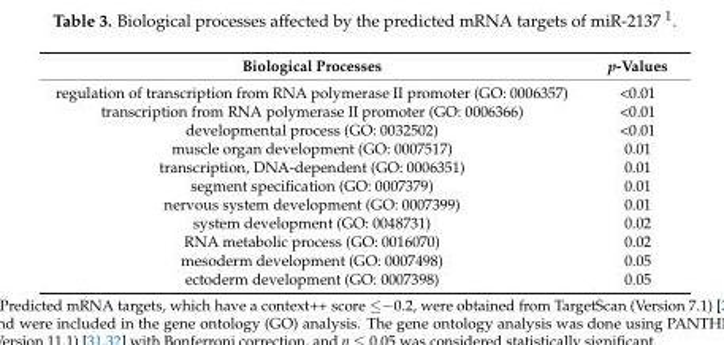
<table><thead><tr><td>Biological Processes</td><td>p-Values</td></tr></thead><tbody><tr><td>regulation of transcription from RNA polymerase II promoter (GO: 0006357)</td><td>&lt;0.01</td></tr><tr><td>transcription from RNA polymerase II promoter (GO: 0006366)</td><td>&lt;0.01</td></tr><tr><td>developmental process (GO: 0032502)</td><td>&lt;0.01</td></tr><tr><td>muscle organ development (GO: 0007517)</td><td>0.01</td></tr><tr><td>transcription, DNA-dependent (GO: 0006351)</td><td>0.01</td></tr><tr><td>segment specification (GO: 0007379)</td><td>0.01</td></tr><tr><td>nervous system development (GO: 0007399)</td><td>0.01</td></tr><tr><td>system development (GO: 0048731)</td><td>0.02</td></tr><tr><td>RNA metabolic process (GO: 0016070)</td><td>0.02</td></tr><tr><td>mesoderm development (GO: 0007498)</td><td>0.05</td></tr><tr><td>ectoderm development (GO: 0007398)</td><td>0.05</td></tr></tbody></table>